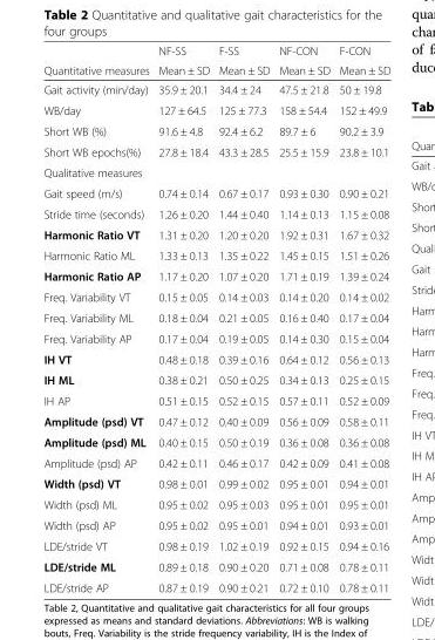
<table><thead><tr><td rowspan="2">Quantitative measures</td><td rowspan="2">NF-SS Mean ± SD</td><td rowspan="2">F-SS Mean ± SD</td><td rowspan="2">NF-CON Mean ± SD</td><td rowspan="2">F-CON Mean ± SD</td></tr><tr></tr></thead><tbody><tr><td>Gait activity (min/day)</td><td>35.9 ± 20.1</td><td>34.4 ± 24</td><td>47.5 ± 21.8</td><td>50 ± 19.8</td></tr><tr><td>WB/day</td><td>127 ± 64.5</td><td>125 ± 77.3</td><td>158 ± 54.4</td><td>152 ± 49.9</td></tr><tr><td>Short WB (%)</td><td>91.6 ± 4.8</td><td>92.4 ± 6.2</td><td>89.7 ± 6</td><td>90.2 ± 3.9</td></tr><tr><td>Short WB epochs(%)</td><td>27.8 ± 18.4</td><td>43.3 ± 28.5</td><td>25.5 ± 15.9</td><td>23.8 ± 10.1</td></tr><tr><td colspan="5">Qualitative measures</td></tr><tr><td>Gait speed (m/s)</td><td>0.74 ± 0.14</td><td>0.67 ± 0.17</td><td>0.93 ± 0.30</td><td>0.90 ± 0.21</td></tr><tr><td>Stride time (seconds)</td><td>1.26 ± 0.20</td><td>1.44 ± 0.40</td><td>1.14 ± 0.13</td><td>1.15 ± 0.08</td></tr><tr><td>Harmonic Ratio VT</td><td>1.31 ± 0.20</td><td>1.20 ± 0.20</td><td>1.92 ± 0.31</td><td>1.67 ± 0.32</td></tr><tr><td>Harmonic Ratio ML</td><td>1.33 ± 0.13</td><td>1.35 ± 0.22</td><td>1.45 ± 0.15</td><td>1.51 ± 0.26</td></tr><tr><td>Harmonic Ratio AP</td><td>1.17 ± 0.20</td><td>1.07 ± 0.20</td><td>1.71 ± 0.19</td><td>1.39 ± 0.24</td></tr><tr><td>Freq. Variability VT</td><td>0.15 ± 0.05</td><td>0.14 ± 0.03</td><td>0.14 ± 0.20</td><td>0.14 ± 0.02</td></tr><tr><td>Freq. Variability ML</td><td>0.18 ± 0.04</td><td>0.21 ± 0.05</td><td>0.16 ± 0.40</td><td>0.17 ± 0.04</td></tr><tr><td>Freq. Variability AP</td><td>0.17 ± 0.04</td><td>0.19 ± 0.05</td><td>0.14 ± 0.30</td><td>0.15 ± 0.04</td></tr><tr><td>IH VT</td><td>0.48 ± 0.18</td><td>0.39 ± 0.16</td><td>0.64 ± 0.12</td><td>0.56 ± 0.13</td></tr><tr><td>IH ML</td><td>0.38 ± 0.21</td><td>0.50 ± 0.25</td><td>0.34 ± 0.13</td><td>0.25 ± 0.15</td></tr><tr><td>IH AP</td><td>0.51 ± 0.15</td><td>0.52 ± 0.15</td><td>0.57 ± 0.11</td><td>0.52 ± 0.09</td></tr><tr><td>Amplitude (psd) VT</td><td>0.47 ± 0.12</td><td>0.40 ± 0.09</td><td>0.56 ± 0.09</td><td>0.58 ± 0.11</td></tr><tr><td>Amplitude (psd) ML</td><td>0.40 ± 0.15</td><td>0.50 ± 0.19</td><td>0.36 ± 0.08</td><td>0.36 ± 0.08</td></tr><tr><td>Amplitude (psd) AP</td><td>0.42 ± 0.11</td><td>0.46 ± 0.17</td><td>0.42 ± 0.09</td><td>0.41 ± 0.08</td></tr><tr><td>Width (psd) VT</td><td>0.98 ± 0.01</td><td>0.99 ± 0.02</td><td>0.95 ± 0.01</td><td>0.94 ± 0.01</td></tr><tr><td>Width (psd) ML</td><td>0.95 ± 0.02</td><td>0.95 ± 0.03</td><td>0.95 ± 0.01</td><td>0.95 ± 0.01</td></tr><tr><td>Width (psd) AP</td><td>0.95 ± 0.02</td><td>0.95 ± 0.01</td><td>0.94 ± 0.01</td><td>0.93 ± 0.01</td></tr><tr><td>LDE/stride VT</td><td>0.98 ± 0.19</td><td>1.02 ± 0.19</td><td>0.92 ± 0.15</td><td>0.94 ± 0.16</td></tr><tr><td>LDE/stride ML</td><td>0.89 ± 0.18</td><td>0.90 ± 0.20</td><td>0.71 ± 0.08</td><td>0.78 ± 0.11</td></tr><tr><td>LDE/stride AP</td><td>0.87 ± 0.19</td><td>0.90 ± 0.21</td><td>0.72 ± 0.10</td><td>0.78 ± 0.11</td></tr></tbody></table>